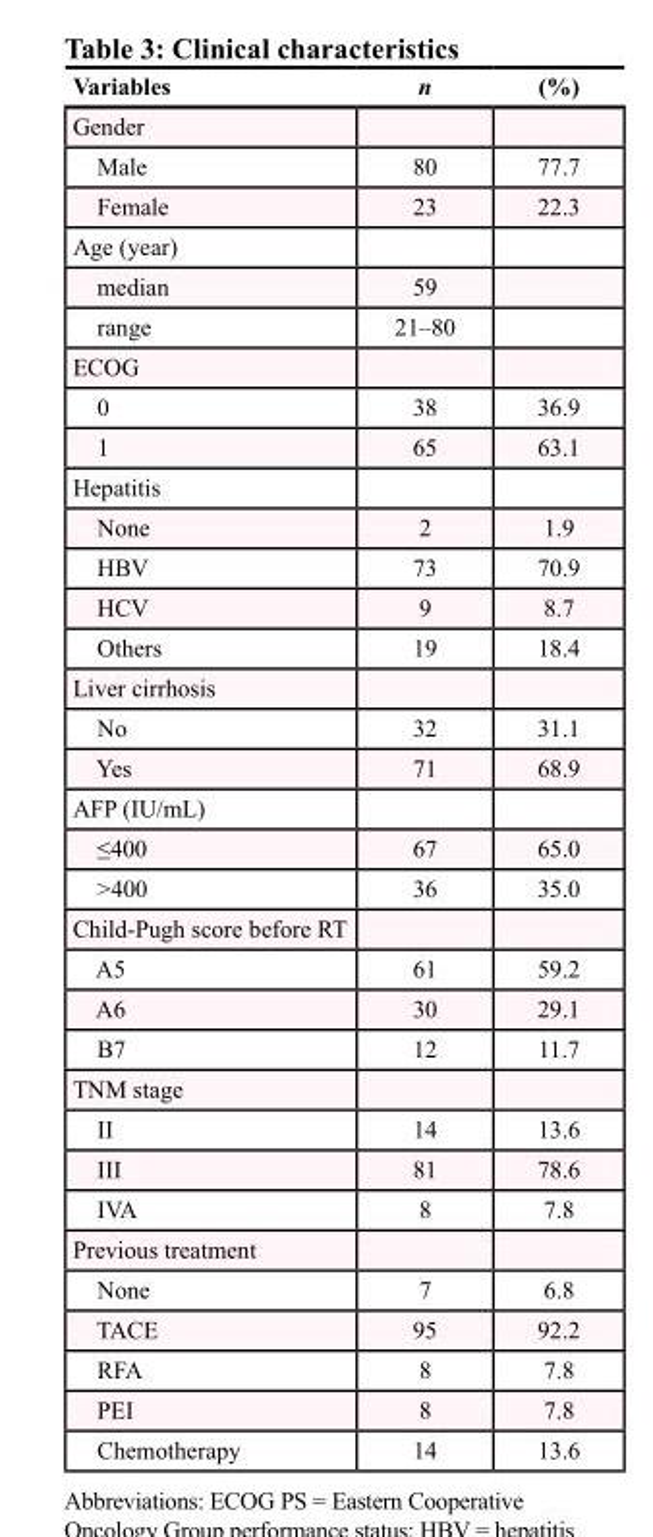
<table><thead><tr><td>Variables</td><td>n</td><td>(%)</td></tr></thead><tbody><tr><td colspan="3">Gender</td></tr><tr><td>Male</td><td>80</td><td>77.7</td></tr><tr><td>Female</td><td>23</td><td>22.3</td></tr><tr><td colspan="3">Age (year)</td></tr><tr><td>median</td><td>59</td><td></td></tr><tr><td>range</td><td>21–80</td><td></td></tr><tr><td colspan="3">ECOG</td></tr><tr><td>0</td><td>38</td><td>36.9</td></tr><tr><td>1</td><td>65</td><td>63.1</td></tr><tr><td colspan="3">Hepatitis</td></tr><tr><td>None</td><td>2</td><td>1.9</td></tr><tr><td>HBV</td><td>73</td><td>70.9</td></tr><tr><td>HCV</td><td>9</td><td>8.7</td></tr><tr><td>Others</td><td>19</td><td>18.4</td></tr><tr><td colspan="3">Liver cirrhosis</td></tr><tr><td>No</td><td>32</td><td>31.1</td></tr><tr><td>Yes</td><td>71</td><td>68.9</td></tr><tr><td colspan="3">AFP (IU/mL)</td></tr><tr><td>≤400</td><td>67</td><td>65.0</td></tr><tr><td>&gt;400</td><td>36</td><td>35.0</td></tr><tr><td colspan="3">Child-Pugh score before RT</td></tr><tr><td>A5</td><td>61</td><td>59.2</td></tr><tr><td>A6</td><td>30</td><td>29.1</td></tr><tr><td>B7</td><td>12</td><td>11.7</td></tr><tr><td colspan="3">TNM stage</td></tr><tr><td>II</td><td>14</td><td>13.6</td></tr><tr><td>III</td><td>81</td><td>78.6</td></tr><tr><td>IVA</td><td>8</td><td>7.8</td></tr><tr><td colspan="3">Previous treatment</td></tr><tr><td>None</td><td>7</td><td>6.8</td></tr><tr><td>TACE</td><td>95</td><td>92.2</td></tr><tr><td>RFA</td><td>8</td><td>7.8</td></tr><tr><td>PEI</td><td>8</td><td>7.8</td></tr><tr><td>Chemotherapy</td><td>14</td><td>13.6</td></tr></tbody></table>